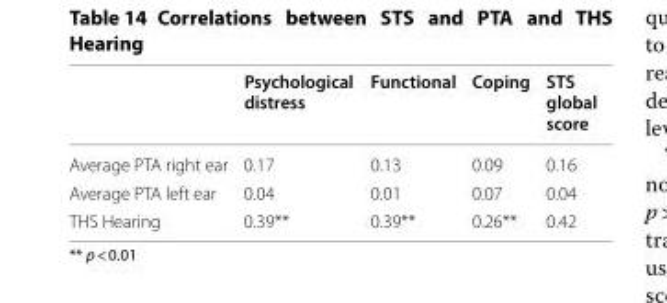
<table><thead><tr><td></td><td>Psychological distress</td><td>Functional</td><td>Coping</td><td>STS global score</td></tr></thead><tbody><tr><td>Average PTA right ear</td><td>0.17</td><td>0.13</td><td>0.09</td><td>0.16</td></tr><tr><td>Average PTA left ear</td><td>0.04</td><td>0.01</td><td>0.07</td><td>0.04</td></tr><tr><td>THS Hearing</td><td>0.39**</td><td>0.39**</td><td>0.26**</td><td>0.42</td></tr></tbody></table>